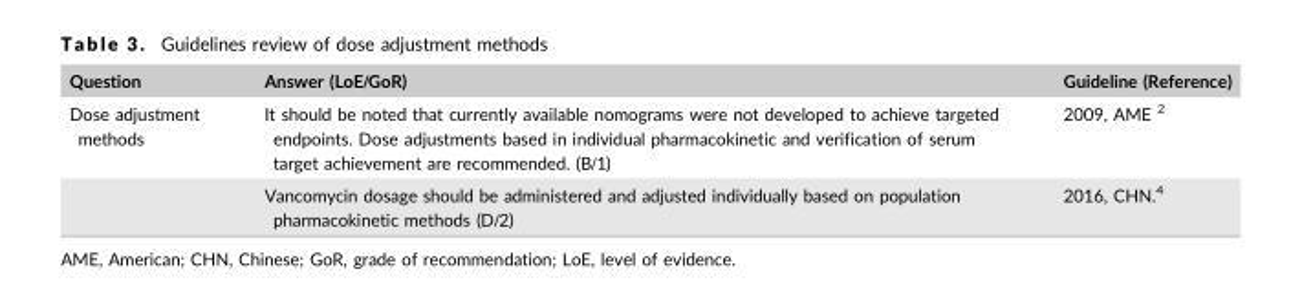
<table><thead><tr><td>Question</td><td>Answer (LoE/GoR)</td><td>Guideline (Reference)</td></tr></thead><tbody><tr><td rowspan="2">Dose adjustment methods</td><td>It should be noted that currently available nomograms were not developed to achieve targeted endpoints. Dose adjustments based in individual pharmacokinetic and verification of serum target achievement are recommended. (B/1)</td><td>2009, AME 2</td></tr><tr><td>Vancomycin dosage should be administered and adjusted individually based on population pharmacokinetic methods (D/2)</td><td>2016, CHN.<sup>4</sup></td></tr></tbody></table>